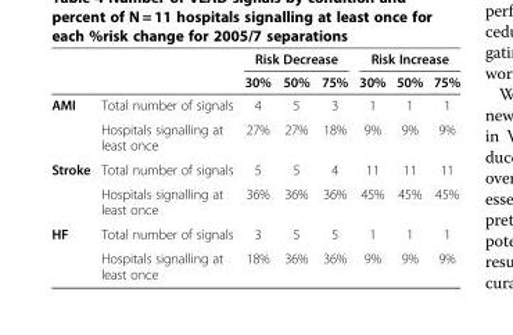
<table><thead><tr><td rowspan="2"></td><td rowspan="2"></td><td colspan="3">Risk Decrease</td><td colspan="3">Risk Increase</td></tr><tr><td>30%</td><td>50%</td><td>75%</td><td>30%</td><td>50%</td><td>75%</td></tr></thead><tbody><tr><td rowspan="2">AMI</td><td>Total number of signals</td><td>4</td><td>5</td><td>3</td><td>1</td><td>1</td><td>1</td></tr><tr><td>Hospitals signalling at least once</td><td>27%</td><td>27%</td><td>18%</td><td>9%</td><td>9%</td><td>9%</td></tr><tr><td rowspan="2">Stroke</td><td>Total number of signals</td><td>5</td><td>5</td><td>4</td><td>11</td><td>11</td><td>11</td></tr><tr><td>Hospitals signalling at least once</td><td>36%</td><td>36%</td><td>36%</td><td>45%</td><td>45%</td><td>45%</td></tr><tr><td rowspan="2">HF</td><td>Total number of signals</td><td>3</td><td>5</td><td>5</td><td>1</td><td>1</td><td>1</td></tr><tr><td>Hospitals signalling at least once</td><td>18%</td><td>36%</td><td>36%</td><td>9%</td><td>9%</td><td>9%</td></tr></tbody></table>